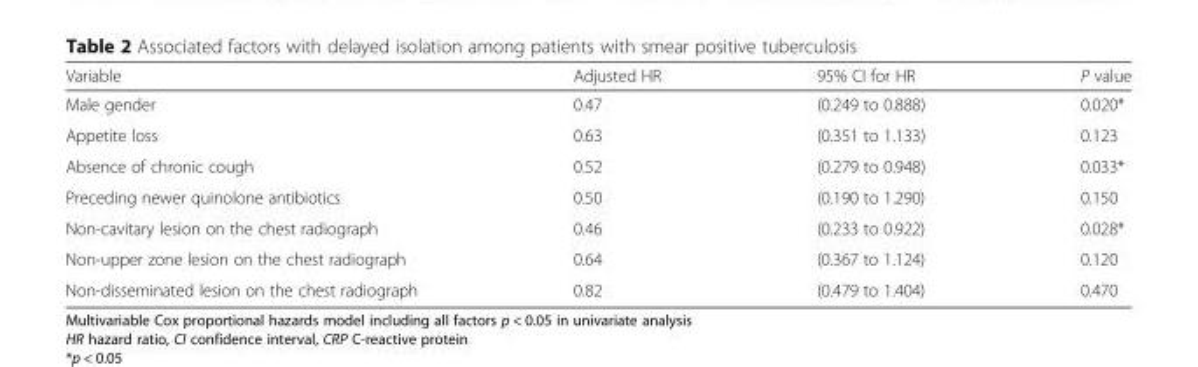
<table><thead><tr><td>Variable</td><td>Adjusted HR</td><td>95% CI for HR</td><td>P value</td></tr></thead><tbody><tr><td>Male gender</td><td>0.47</td><td>(0.249 to 0.888)</td><td>0.020*</td></tr><tr><td>Appetite loss</td><td>0.63</td><td>(0.351 to 1.133)</td><td>0.123</td></tr><tr><td>Absence of chronic cough</td><td>0.52</td><td>(0.279 to 0.948)</td><td>0.033*</td></tr><tr><td>Preceding newer quinolone antibiotics</td><td>0.50</td><td>(0.190 to 1.290)</td><td>0.150</td></tr><tr><td>Non-cavitary lesion on the chest radiograph</td><td>0.46</td><td>(0.233 to 0.922)</td><td>0.028*</td></tr><tr><td>Non-upper zone lesion on the chest radiograph</td><td>0.64</td><td>(0.367 to 1.124)</td><td>0.120</td></tr><tr><td>Non-disseminated lesion on the chest radiograph</td><td>0.82</td><td>(0.479 to 1.404)</td><td>0.470</td></tr></tbody></table>